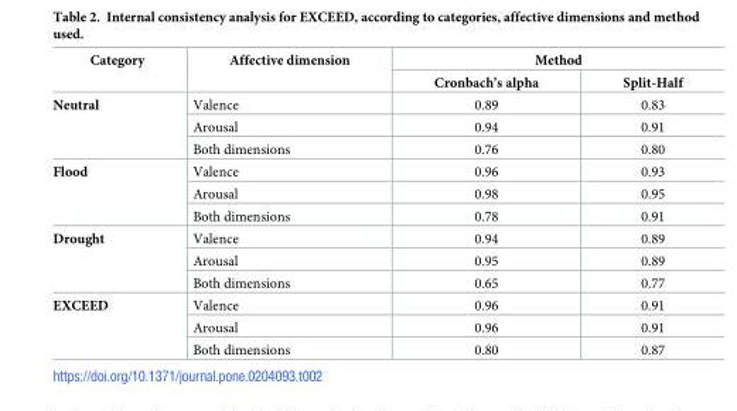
<table><thead><tr><td rowspan="2">Category</td><td rowspan="2">Affective dimension</td><td colspan="2">Method</td></tr><tr><td>Cronbach’s alpha</td><td>Split-Half</td></tr></thead><tbody><tr><td rowspan="3">Neutral</td><td>Valence</td><td>0.89</td><td>0.83</td></tr><tr><td>Arousal</td><td>0.94</td><td>0.91</td></tr><tr><td>Both dimensions</td><td>0.76</td><td>0.80</td></tr><tr><td rowspan="3">Flood</td><td>Valence</td><td>0.96</td><td>0.93</td></tr><tr><td>Arousal</td><td>0.98</td><td>0.95</td></tr><tr><td>Both dimensions</td><td>0.78</td><td>0.91</td></tr><tr><td rowspan="3">Drought</td><td>Valence</td><td>0.94</td><td>0.89</td></tr><tr><td>Arousal</td><td>0.95</td><td>0.89</td></tr><tr><td>Both dimensions</td><td>0.65</td><td>0.77</td></tr><tr><td rowspan="3">EXCEED</td><td>Valence</td><td>0.96</td><td>0.91</td></tr><tr><td>Arousal</td><td>0.96</td><td>0.91</td></tr><tr><td>Both dimensions</td><td>0.80</td><td>0.87</td></tr></tbody></table>